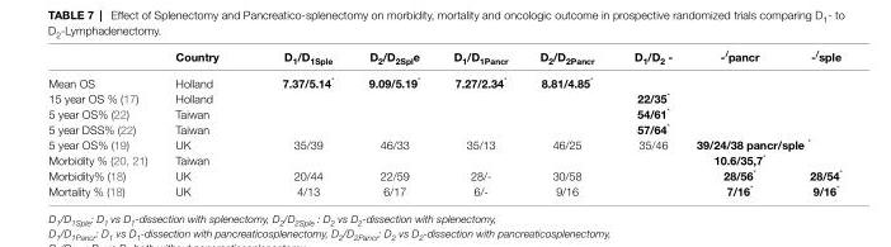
<table><thead><tr><td></td><td>Country</td><td>D<sub>1</sub>/D<sub>1Sple</sub></td><td>D<sub>2</sub>/D<sub>2Spl</sub>e</td><td>D<sub>1</sub>/D<sub>1Pancr</sub></td><td>D<sub>2</sub>/D<sub>2Pancr</sub></td><td>D<sub>1</sub>/D<sub>2</sub> -</td><td>-<sup>/</sup>pancr</td><td>-<sup>/</sup>sple</td></tr></thead><tbody><tr><td>Mean OS</td><td>Holland</td><td>7.37/5.14*</td><td>9.09/5.19*</td><td>7.27/2.34*</td><td>8.81/4.85*</td><td></td><td></td><td></td></tr><tr><td>15 year OS % (17)</td><td>Holland</td><td></td><td></td><td></td><td></td><td>22/35*</td><td></td><td></td></tr><tr><td>5 year OS% (22)</td><td>Taiwan</td><td></td><td></td><td></td><td></td><td>54/61*</td><td></td><td></td></tr><tr><td>5 year DSS% (22)</td><td>Taiwan</td><td></td><td></td><td></td><td></td><td>57/64*</td><td></td><td></td></tr><tr><td>5 year OS% (19)</td><td>UK</td><td>35/39</td><td>46/33</td><td>35/13</td><td>46/25</td><td>35/46</td><td colspan="2">39/24/38 pancr/sple *</td></tr><tr><td>Morbidity % (20, 21)</td><td>Taiwan</td><td></td><td></td><td></td><td></td><td></td><td>10.6/35,7*</td><td></td></tr><tr><td>Morbidity% (18)</td><td>UK</td><td>20/44</td><td>22/59</td><td>28/-</td><td>30/58</td><td></td><td>28/56*</td><td>28/54*</td></tr><tr><td>Mortality % (18)</td><td>UK</td><td>4/13</td><td>6/17</td><td>6/-</td><td>9/16</td><td></td><td>7/16*</td><td>9/16*</td></tr></tbody></table>